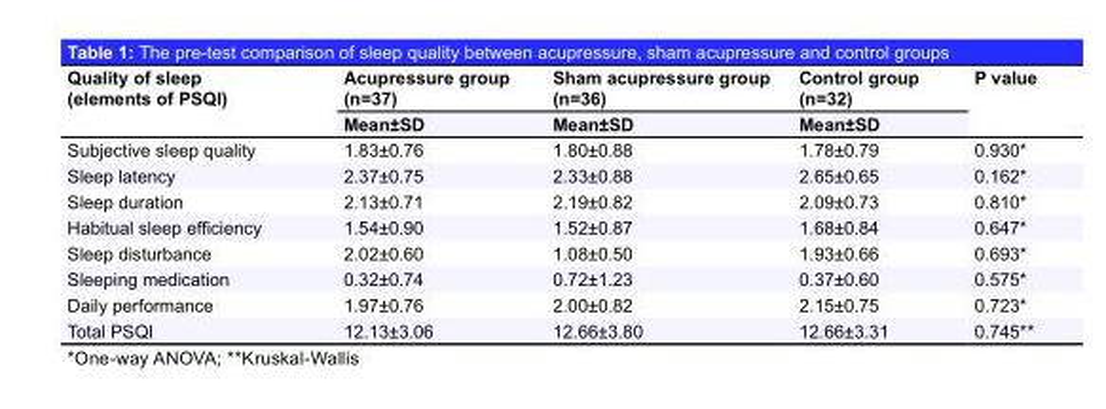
<table><thead><tr><td rowspan="2">Quality of sleep (elements of PSQI)</td><td rowspan="2">Acupressure group (n=37) Mean±SD</td><td rowspan="2">Sham acupressure group (n=36) Mean±SD</td><td rowspan="2">Control group (n=32) Mean±SD</td><td rowspan="2">P value</td></tr><tr></tr></thead><tbody><tr><td>Subjective sleep quality</td><td>1.83±0.76</td><td>1.80±0.88</td><td>1.78±0.79</td><td>0.930*</td></tr><tr><td>Sleep latency</td><td>2.37±0.75</td><td>2.33±0.88</td><td>2.65±0.65</td><td>0.162*</td></tr><tr><td>Sleep duration</td><td>2.13±0.71</td><td>2.19±0.82</td><td>2.09±0.73</td><td>0.810*</td></tr><tr><td>Habitual sleep efficiency</td><td>1.54±0.90</td><td>1.52±0.87</td><td>1.68±0.84</td><td>0.647*</td></tr><tr><td>Sleep disturbance</td><td>2.02±0.60</td><td>1.08±0.50</td><td>1.93±0.66</td><td>0.693*</td></tr><tr><td>Sleeping medication</td><td>0.32±0.74</td><td>0.72±1.23</td><td>0.37±0.60</td><td>0.575*</td></tr><tr><td>Daily performance</td><td>1.97±0.76</td><td>2.00±0.82</td><td>2.15±0.75</td><td>0.723*</td></tr><tr><td>Total PSQI</td><td>12.13±3.06</td><td>12.66±3.80</td><td>12.66±3.31</td><td>0.745**</td></tr></tbody></table>